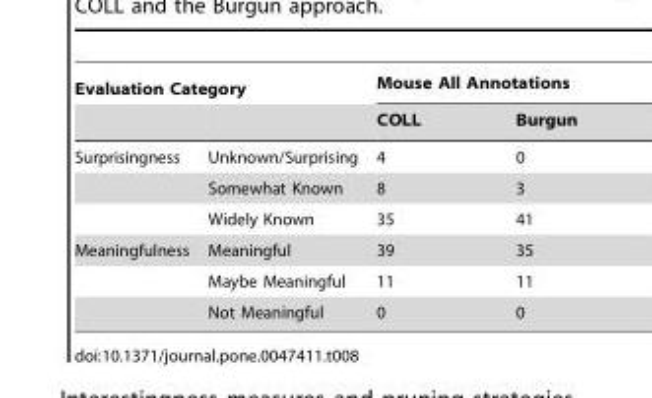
<table><thead><tr><td colspan="2">Evaluation Category</td><td colspan="2">Mouse All Annotations</td></tr><tr><td></td><td></td><td>COLL</td><td>Burgun</td></tr></thead><tbody><tr><td rowspan="3">Surprisingness</td><td>Unknown/Surprising</td><td>4</td><td>0</td></tr><tr><td>Somewhat Known</td><td>8</td><td>3</td></tr><tr><td>Widely Known</td><td>35</td><td>41</td></tr><tr><td rowspan="3">Meaningfulness</td><td>Meaningful</td><td>39</td><td>35</td></tr><tr><td>Maybe Meaningful</td><td>11</td><td>11</td></tr><tr><td>Not Meaningful</td><td>0</td><td>0</td></tr></tbody></table>